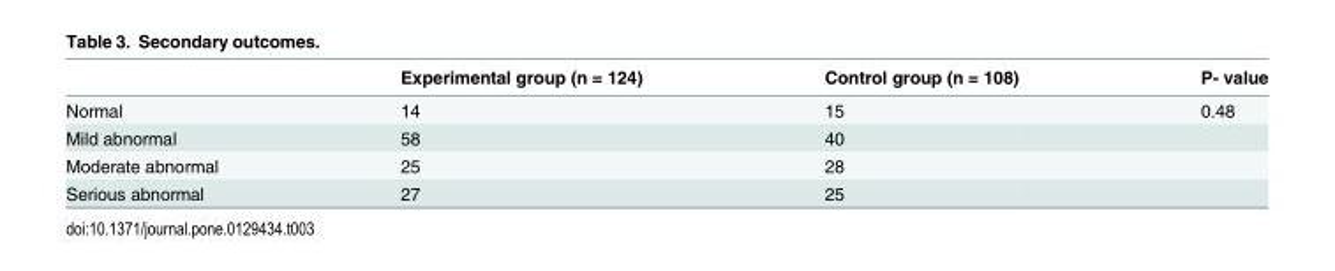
<table><thead><tr><td></td><td>Experimental group (n = 124)</td><td>Control group (n = 108)</td><td>P- value</td></tr></thead><tbody><tr><td>Normal</td><td>14</td><td>15</td><td>0.48</td></tr><tr><td>Mild abnormal</td><td>58</td><td>40</td><td></td></tr><tr><td>Moderate abnormal</td><td>25</td><td>28</td><td></td></tr><tr><td>Serious abnormal</td><td>27</td><td>25</td><td></td></tr></tbody></table>